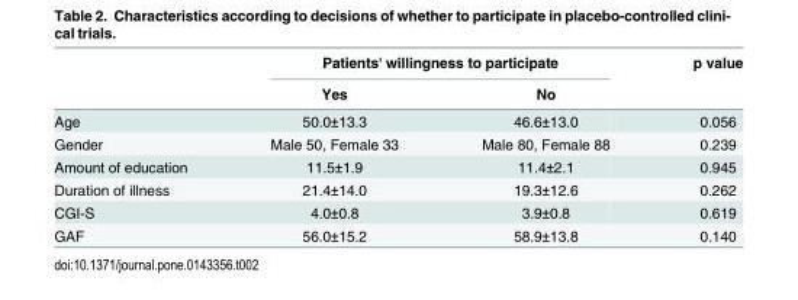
<table><thead><tr><td rowspan="2"></td><td colspan="2">Patients&#x27; willingness to participate</td><td rowspan="2">p value</td></tr><tr><td>Yes</td><td>No</td></tr></thead><tbody><tr><td>Age</td><td>50.0±13.3</td><td>46.6±13.0</td><td>0.056</td></tr><tr><td>Gender</td><td>Male 50, Female 33</td><td>Male 80, Female 88</td><td>0.239</td></tr><tr><td>Amount of education</td><td>11.5±1.9</td><td>11.4±2.1</td><td>0.945</td></tr><tr><td>Duration of illness</td><td>21.4±14.0</td><td>19.3±12.6</td><td>0.262</td></tr><tr><td>CGI-S</td><td>4.0±0.8</td><td>3.9±0.8</td><td>0.619</td></tr><tr><td>GAF</td><td>56.0±15.2</td><td>58.9±13.8</td><td>0.140</td></tr></tbody></table>